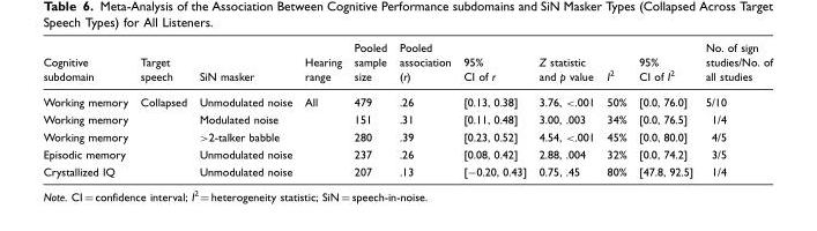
<table><thead><tr><td>Cognitive subdomain</td><td>Target speech</td><td>SiN masker</td><td>Hearing range</td><td>Pooled sample size</td><td>Pooled association (r)</td><td>95% CI of r</td><td>Z statistic and p value</td><td>I<sup>2</sup></td><td>95% CI of I<sup>2</sup></td><td>No. of sign studies/No. of all studies</td></tr></thead><tbody><tr><td>Working memory</td><td rowspan="5">Collapsed</td><td>Unmodulated noise</td><td rowspan="5">All</td><td>479</td><td>.26</td><td>[0.13, 0.38]</td><td>3.76, &lt;.001</td><td>50%</td><td>[0.0, 76.0]</td><td>5/10</td></tr><tr><td>Working memory</td><td>Modulated noise</td><td>151</td><td>.31</td><td>[0.11, 0.48]</td><td>3.00, .003</td><td>34%</td><td>[0.0, 76.5]</td><td>1/4</td></tr><tr><td>Working memory</td><td>&gt;2-talker babble</td><td>280</td><td>.39</td><td>[0.23, 0.52]</td><td>4.54, &lt;.001</td><td>45%</td><td>[0.0, 80.0]</td><td>4/5</td></tr><tr><td>Episodic memory</td><td>Unmodulated noise</td><td>237</td><td>.26</td><td>[0.08, 0.42]</td><td>2.88, .004</td><td>32%</td><td>[0.0, 74.2]</td><td>3/5</td></tr><tr><td>Crystallized IQ</td><td>Unmodulated noise</td><td>207</td><td>.13</td><td>[−0.20, 0.43]</td><td>0.75, .45</td><td>80%</td><td>[47.8, 92.5]</td><td>1/4</td></tr></tbody></table>